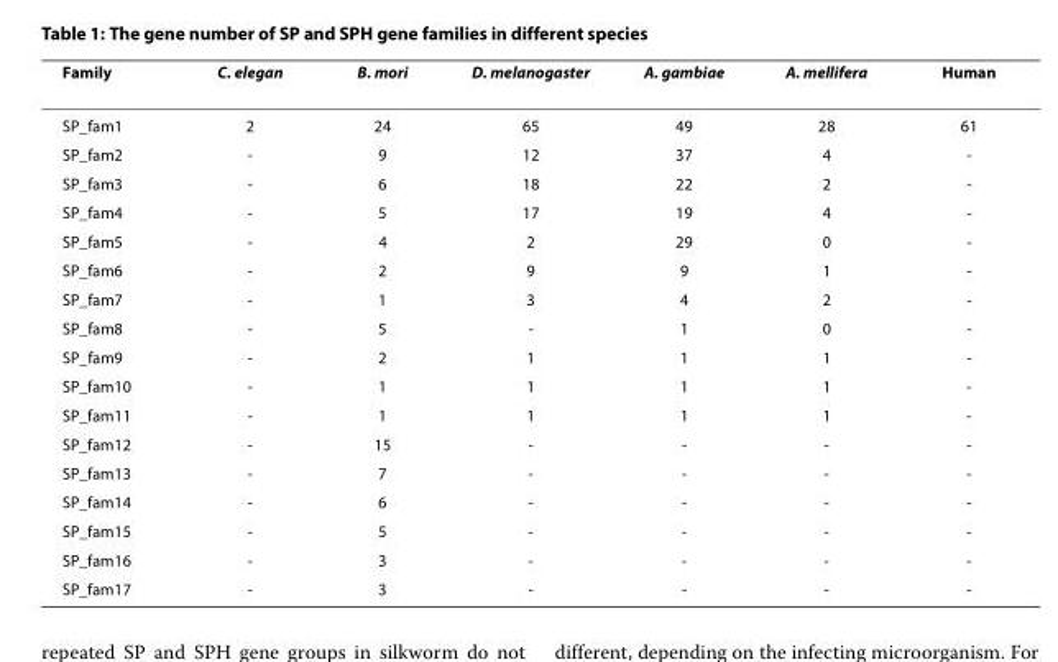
<table><thead><tr><td>Family</td><td>C. elegan</td><td>B. mori</td><td>D. melanogaster</td><td>A. gambiae</td><td>A. mellifera</td><td>Human</td></tr></thead><tbody><tr><td>SP_fam1</td><td>2</td><td>24</td><td>65</td><td>49</td><td>28</td><td>61</td></tr><tr><td>SP_fam2</td><td>-</td><td>9</td><td>12</td><td>37</td><td>4</td><td>-</td></tr><tr><td>SP_fam3</td><td>-</td><td>6</td><td>18</td><td>22</td><td>2</td><td>-</td></tr><tr><td>SP_fam4</td><td>-</td><td>5</td><td>17</td><td>19</td><td>4</td><td>-</td></tr><tr><td>SP_fam5</td><td>-</td><td>4</td><td>2</td><td>29</td><td>0</td><td>-</td></tr><tr><td>SP_fam6</td><td>-</td><td>2</td><td>9</td><td>9</td><td>1</td><td>-</td></tr><tr><td>SP_fam7</td><td>-</td><td>1</td><td>3</td><td>4</td><td>2</td><td>-</td></tr><tr><td>SP_fam8</td><td>-</td><td>5</td><td>-</td><td>1</td><td>0</td><td>-</td></tr><tr><td>SP_fam9</td><td>-</td><td>2</td><td>1</td><td>1</td><td>1</td><td>-</td></tr><tr><td>SP_fam10</td><td>-</td><td>1</td><td>1</td><td>1</td><td>1</td><td>-</td></tr><tr><td>SP_fam11</td><td>-</td><td>1</td><td>1</td><td>1</td><td>1</td><td>-</td></tr><tr><td>SP_fam12</td><td>-</td><td>15</td><td>-</td><td>-</td><td>-</td><td>-</td></tr><tr><td>SP_fam13</td><td>-</td><td>7</td><td>-</td><td>-</td><td>-</td><td>-</td></tr><tr><td>SP_fam14</td><td>-</td><td>6</td><td>-</td><td>-</td><td>-</td><td>-</td></tr><tr><td>SP_fam15</td><td>-</td><td>5</td><td>-</td><td>-</td><td>-</td><td>-</td></tr><tr><td>SP_fam16</td><td>-</td><td>3</td><td>-</td><td>-</td><td>-</td><td>-</td></tr><tr><td>SP_fam17</td><td>-</td><td>3</td><td>-</td><td>-</td><td>-</td><td>-</td></tr></tbody></table>